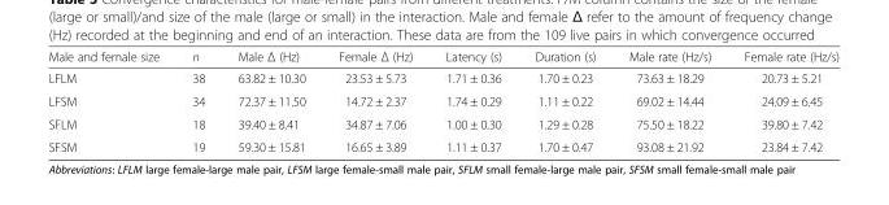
<table><thead><tr><td>Male and female size</td><td>n</td><td>Male Δ (Hz)</td><td>Female Δ (Hz)</td><td>Latency (s)</td><td>Duration (s)</td><td>Male rate (Hz/s)</td><td>Female rate (Hz/s)</td></tr></thead><tbody><tr><td>LFLM</td><td>38</td><td>63.82 ± 10.30</td><td>23.53 ± 5.73</td><td>1.71 ± 0.36</td><td>1.70 ± 0.23</td><td>73.63 ± 18.29</td><td>20.73 ± 5.21</td></tr><tr><td>LFSM</td><td>34</td><td>72.37 ± 11.50</td><td>14.72 ± 2.37</td><td>1.74 ± 0.29</td><td>1.11 ± 0.22</td><td>69.02 ± 14.44</td><td>24.09 ± 6.45</td></tr><tr><td>SFLM</td><td>18</td><td>39.40 ± 8.41</td><td>34.87 ± 7.06</td><td>1.00 ± 0.30</td><td>1.29 ± 0.28</td><td>75.50 ± 18.22</td><td>39.80 ± 7.42</td></tr><tr><td>SFSM</td><td>19</td><td>59.30 ± 15.81</td><td>16.65 ± 3.89</td><td>1.11 ± 0.37</td><td>1.70 ± 0.47</td><td>93.08 ± 21.92</td><td>23.84 ± 7.42</td></tr></tbody></table>